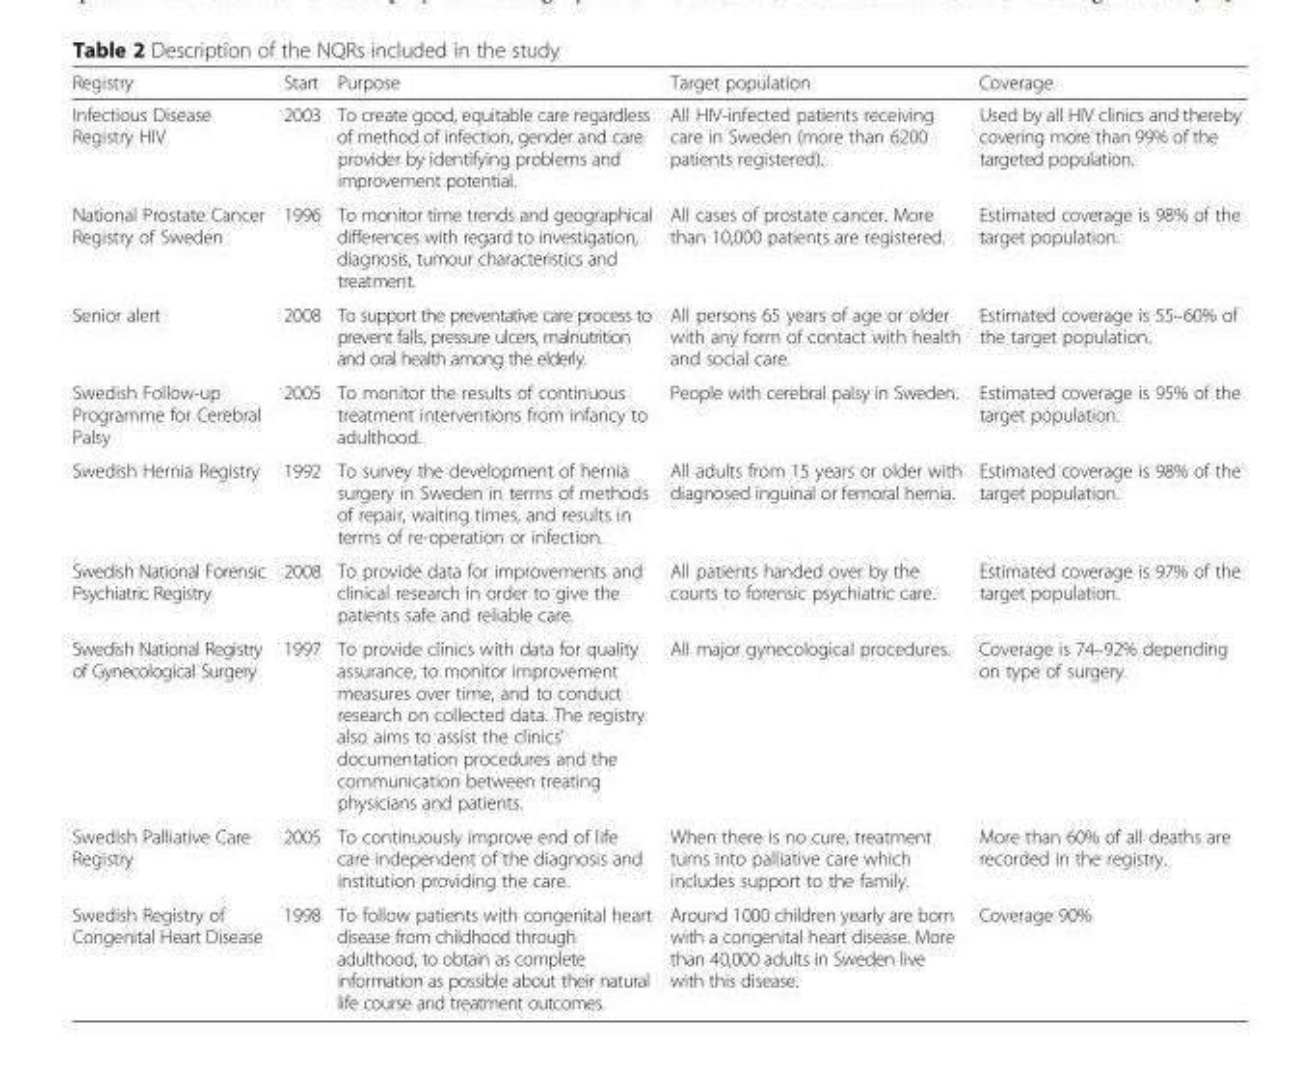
<table><thead><tr><td>Registry</td><td>Start</td><td>Purpose</td><td>Target population</td><td>Coverage</td></tr></thead><tbody><tr><td>Infectious Disease Registry HIV</td><td>2003</td><td>To create good, equitable care regardless of method of infection, gender and care provider by identifying problems and improvement potential.</td><td>All HIV-infected patients receiving care in Sweden (more than 6200 patients registered).</td><td>Used by all HIV clinics and thereby covering more than 99% of the targeted population.</td></tr><tr><td>National Prostate Cancer Registry of Sweden</td><td>1996</td><td>To monitor time trends and geographical differences with regard to investigation, diagnosis, tumour characteristics and treatment.</td><td>All cases of prostate cancer. More than 10,000 patients are registered.</td><td>Estimated coverage is 98% of the target population.</td></tr><tr><td>Senior alert</td><td>2008</td><td>To support the preventative care process to prevent falls, pressure ulcers, malnutrition and oral health among the elderly.</td><td>All persons 65 years of age or older with any form of contact with health and social care.</td><td>Estimated coverage is 55–60% of the target population.</td></tr><tr><td>Swedish Follow-up Programme for Cerebral Palsy</td><td>2005</td><td>To monitor the results of continuous treatment interventions from infancy to adulthood.</td><td>People with cerebral palsy in Sweden.</td><td>Estimated coverage is 95% of the target population.</td></tr><tr><td>Swedish Hernia Registry</td><td>1992</td><td>To survey the development of hernia surgery in Sweden in terms of methods of repair, waiting times, and results in terms of re-operation or infection.</td><td>All adults from 15 years or older with diagnosed inguinal or femoral hernia.</td><td>Estimated coverage is 98% of the target population.</td></tr><tr><td>Swedish National Forensic Psychiatric Registry</td><td>2008</td><td>To provide data for improvements and clinical research in order to give the patients safe and reliable care.</td><td>All patients handed over by the courts to forensic psychiatric care.</td><td>Estimated coverage is 97% of the target population.</td></tr><tr><td>Swedish National Registry of Gynecological Surgery</td><td>1997</td><td>To provide clinics with data for quality assurance, to monitor improvement measures over time, and to conduct research on collected data. The registry also aims to assist the clinics’ documentation procedures and the communication between treating physicians and patients.</td><td>All major gynecological procedures.</td><td>Coverage is 74–92% depending on type of surgery.</td></tr><tr><td>Swedish Palliative Care Registry</td><td>2005</td><td>To continuously improve end of life care independent of the diagnosis and institution providing the care.</td><td>When there is no cure, treatment turns into palliative care which includes support to the family.</td><td>More than 60% of all deaths are recorded in the registry.</td></tr><tr><td>Swedish Registry of Congenital Heart Disease</td><td>1998</td><td>To follow patients with congenital heart disease from childhood through adulthood, to obtain as complete information as possible about their natural life course and treatment outcomes.</td><td>Around 1000 children yearly are born with a congenital heart disease. More than 40,000 adults in Sweden live with this disease.</td><td>Coverage 90%</td></tr></tbody></table>